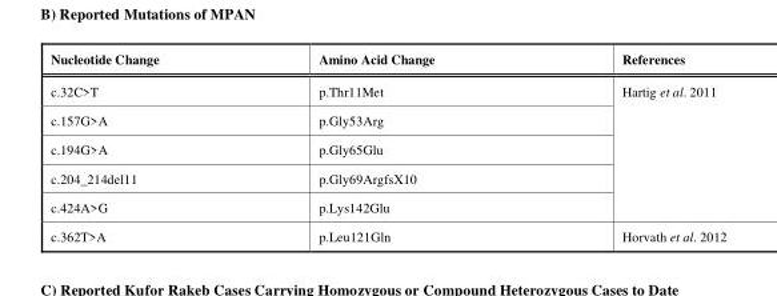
<table><thead><tr><td>Nucleotide Change</td><td>Amino Acid Change</td><td>References</td></tr></thead><tbody><tr><td>c.32C&gt;T</td><td>p.Thr11Met</td><td rowspan="5">Hartig et al. 2011</td></tr><tr><td>c.157G&gt;A</td><td>p.Gly53Arg</td></tr><tr><td>c.194G&gt;A</td><td>p.Gly65Glu</td></tr><tr><td>c.204_214del11</td><td>p.Gly69ArgfsX10</td></tr><tr><td>c.424A&gt;G</td><td>p.Lys142Glu</td></tr><tr><td>c.362T&gt;A</td><td>p.Leu121Gln</td><td>Horvath et al. 2012</td></tr></tbody></table>